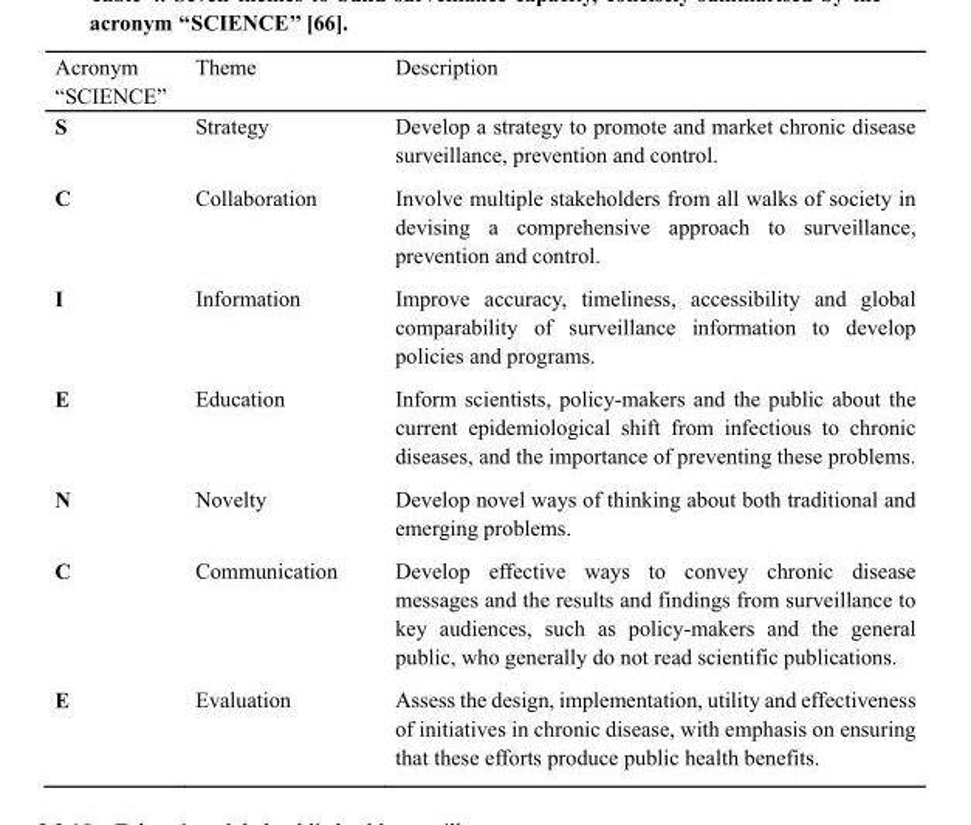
<table><thead><tr><td>Acronym “SCIENCE”</td><td>Theme</td><td>Description</td></tr></thead><tbody><tr><td>S</td><td>Strategy</td><td>Develop a strategy to promote and market chronic disease surveillance, prevention and control.</td></tr><tr><td>C</td><td>Collaboration</td><td>Involve multiple stakeholders from all walks of society in devising a comprehensive approach to surveillance, prevention and control.</td></tr><tr><td>I</td><td>Information</td><td>Improve accuracy, timeliness, accessibility and global comparability of surveillance information to develop policies and programs.</td></tr><tr><td>E</td><td>Education</td><td>Inform scientists, policy-makers and the public about the current epidemiological shift from infectious to chronic diseases, and the importance of preventing these problems.</td></tr><tr><td>N</td><td>Novelty</td><td>Develop novel ways of thinking about both traditional and emerging problems.</td></tr><tr><td>C</td><td>Communication</td><td>Develop effective ways to convey chronic disease messages and the results and findings from surveillance to key audiences, such as policy-makers and the general public, who generally do not read scientific publications.</td></tr><tr><td>E</td><td>Evaluation</td><td>Assess the design, implementation, utility and effectiveness of initiatives in chronic disease, with emphasis on ensuring that these efforts produce public health benefits.</td></tr></tbody></table>